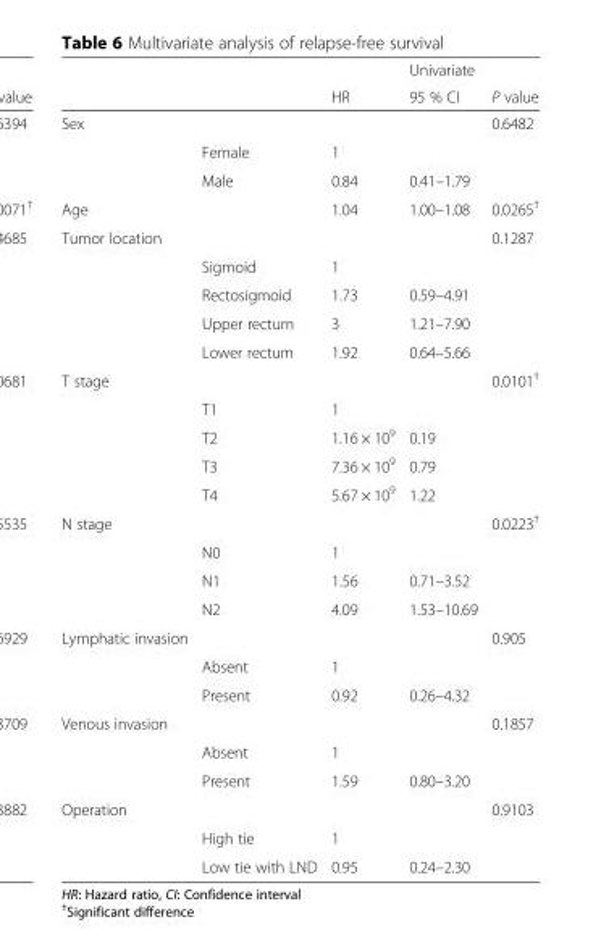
<table><thead><tr><td rowspan="2"></td><td rowspan="2"></td><td rowspan="2">HR</td><td rowspan="2">Univariate 95 % CI</td><td rowspan="2">P value</td></tr><tr></tr></thead><tbody><tr><td rowspan="3">Sex</td><td></td><td></td><td></td><td>0.6482</td></tr><tr><td>Female</td><td>1</td><td></td><td></td></tr><tr><td>Male</td><td>0.84</td><td>0.41–1.79</td><td></td></tr><tr><td>Age</td><td></td><td>1.04</td><td>1.00–1.08</td><td>0.0265<sup>†</sup></td></tr><tr><td rowspan="5">Tumor location</td><td></td><td></td><td></td><td>0.1287</td></tr><tr><td>Sigmoid</td><td>1</td><td></td><td></td></tr><tr><td>Rectosigmoid</td><td>1.73</td><td>0.59–4.91</td><td></td></tr><tr><td>Upper rectum</td><td>3</td><td>1.21–7.90</td><td></td></tr><tr><td>Lower rectum</td><td>1.92</td><td>0.64–5.66</td><td></td></tr><tr><td rowspan="5">T stage</td><td></td><td></td><td></td><td>0.0101<sup>†</sup></td></tr><tr><td>T1</td><td>1</td><td></td><td></td></tr><tr><td>T2</td><td>1.16 × 10<sup>9</sup></td><td>0.19</td><td></td></tr><tr><td>T3</td><td>7.36 × 10<sup>9</sup></td><td>0.79</td><td></td></tr><tr><td>T4</td><td>5.67 × 10<sup>9</sup></td><td>1.22</td><td></td></tr><tr><td rowspan="4">N stage</td><td></td><td></td><td></td><td>0.0223<sup>†</sup></td></tr><tr><td>N0</td><td>1</td><td></td><td></td></tr><tr><td>N1</td><td>1.56</td><td>0.71–3.52</td><td></td></tr><tr><td>N2</td><td>4.09</td><td>1.53–10.69</td><td></td></tr><tr><td rowspan="3">Lymphatic invasion</td><td></td><td></td><td></td><td>0.905</td></tr><tr><td>Absent</td><td>1</td><td></td><td></td></tr><tr><td>Present</td><td>0.92</td><td>0.26–4.32</td><td></td></tr><tr><td rowspan="3">Venous invasion</td><td></td><td></td><td></td><td>0.1857</td></tr><tr><td>Absent</td><td>1</td><td></td><td></td></tr><tr><td>Present</td><td>1.59</td><td>0.80–3.20</td><td></td></tr><tr><td rowspan="3">Operation</td><td></td><td></td><td></td><td>0.9103</td></tr><tr><td>High tie</td><td>1</td><td></td><td></td></tr><tr><td>Low tie with LND</td><td>0.95</td><td>0.24–2.30</td><td></td></tr></tbody></table>